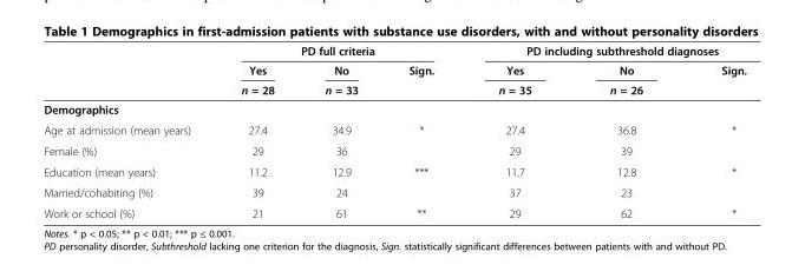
<table><thead><tr><td rowspan="3"></td><td colspan="3">PD full criteria</td><td colspan="3">PD including subthreshold diagnoses</td></tr><tr><td rowspan="2">Yes n = 28</td><td rowspan="2">No n = 33</td><td rowspan="2">Sign.</td><td rowspan="2">Yes n = 35</td><td rowspan="2">No n = 26</td><td rowspan="2">Sign.</td></tr><tr></tr></thead><tbody><tr><td colspan="7">Demographics</td></tr><tr><td>Age at admission (mean years)</td><td>27.4</td><td>34.9</td><td>*</td><td>27.4</td><td>36.8</td><td>*</td></tr><tr><td>Female (%)</td><td>29</td><td>36</td><td></td><td>29</td><td>39</td><td></td></tr><tr><td>Education (mean years)</td><td>11.2</td><td>12.9</td><td>***</td><td>11.7</td><td>12.8</td><td>*</td></tr><tr><td>Married/cohabiting (%)</td><td>39</td><td>24</td><td></td><td>37</td><td>23</td><td></td></tr><tr><td>Work or school (%)</td><td>21</td><td>61</td><td>**</td><td>29</td><td>62</td><td>*</td></tr></tbody></table>